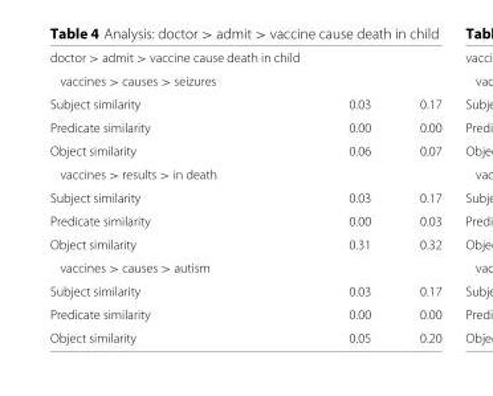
<table><tbody><tr><td colspan="3">doctor &gt; admit &gt; vaccine cause death in child</td></tr><tr><td colspan="3">vaccines &gt; causes &gt; seizures</td></tr><tr><td>Subject similarity</td><td>0.03</td><td>0.17</td></tr><tr><td>Predicate similarity</td><td>0.00</td><td>0.00</td></tr><tr><td>Object similarity</td><td>0.06</td><td>0.07</td></tr><tr><td colspan="3">vaccines &gt; results &gt; in death</td></tr><tr><td>Subject similarity</td><td>0.03</td><td>0.17</td></tr><tr><td>Predicate similarity</td><td>0.00</td><td>0.03</td></tr><tr><td>Object similarity</td><td>0.31</td><td>0.32</td></tr><tr><td colspan="3">vaccines &gt; causes &gt; autism</td></tr><tr><td>Subject similarity</td><td>0.03</td><td>0.17</td></tr><tr><td>Predicate similarity</td><td>0.00</td><td>0.00</td></tr><tr><td>Object similarity</td><td>0.05</td><td>0.20</td></tr></tbody></table>